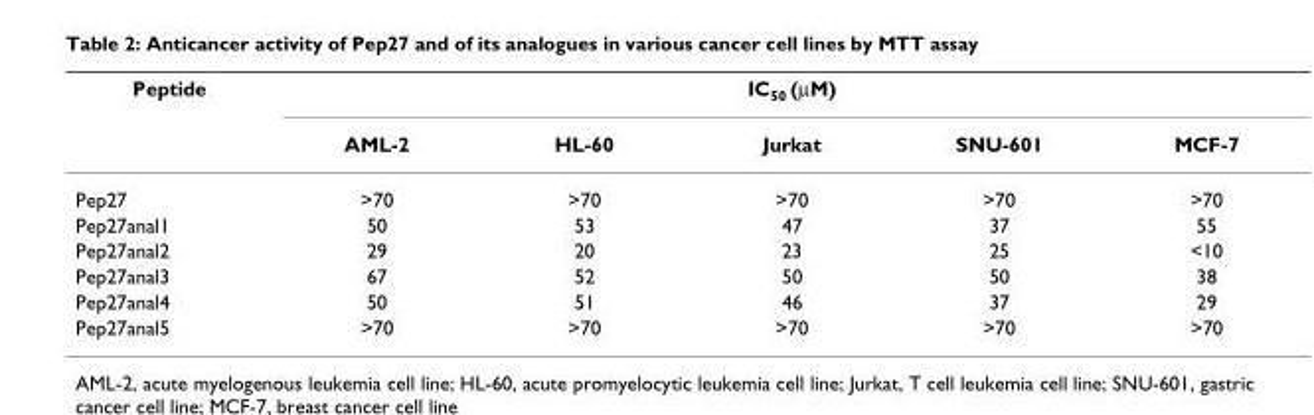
<table><thead><tr><td rowspan="2">Peptide</td><td colspan="5">IC<sub>50</sub> (µM)</td></tr><tr><td>AML-2</td><td>HL-60</td><td>Jurkat</td><td>SNU-601</td><td>MCF-7</td></tr></thead><tbody><tr><td>Pep27</td><td>&gt;70</td><td>&gt;70</td><td>&gt;70</td><td>&gt;70</td><td>&gt;70</td></tr><tr><td>Pep27anal1</td><td>50</td><td>53</td><td>47</td><td>37</td><td>55</td></tr><tr><td>Pep27anal2</td><td>29</td><td>20</td><td>23</td><td>25</td><td>&lt;10</td></tr><tr><td>Pep27anal3</td><td>67</td><td>52</td><td>50</td><td>50</td><td>38</td></tr><tr><td>Pep27anal4</td><td>50</td><td>51</td><td>46</td><td>37</td><td>29</td></tr><tr><td>Pep27anal5</td><td>&gt;70</td><td>&gt;70</td><td>&gt;70</td><td>&gt;70</td><td>&gt;70</td></tr></tbody></table>